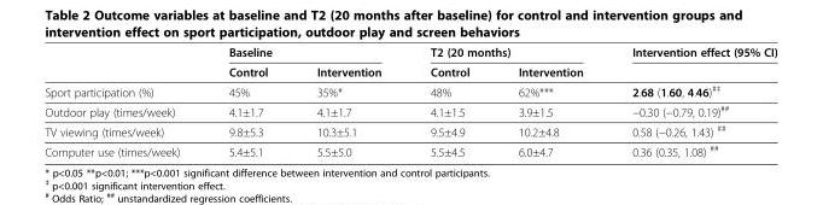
<table><thead><tr><td rowspan="2"></td><td colspan="2">Baseline</td><td colspan="2">T2 (20 months)</td><td rowspan="2">Intervention effect (95% CI)</td></tr><tr><td>Control</td><td>Intervention</td><td>Control</td><td>Intervention</td></tr></thead><tbody><tr><td>Sport participation (%)</td><td>45%</td><td>35%*</td><td>48%</td><td>62%***</td><td>2.68 (1.60, 4.46)<sup>#‡</sup></td></tr><tr><td>Outdoor play (times/week)</td><td>4.1±1.7</td><td>4.1±1.7</td><td>4.1±1.5</td><td>3.9±1.5</td><td>−0.30 (−0.79, 0.19)<sup>##</sup></td></tr><tr><td>TV viewing (times/week)</td><td>9.8±5.3</td><td>10.3±5.1</td><td>9.5±4.9</td><td>10.2±4.8</td><td>0.58 (−0.26, 1.43) <sup>##</sup></td></tr><tr><td>Computer use (times/week)</td><td>5.4±5.1</td><td>5.5±5.0</td><td>5.5±4.5</td><td>6.0±4.7</td><td>0.36 (0.35, 1.08) <sup>##</sup></td></tr></tbody></table>